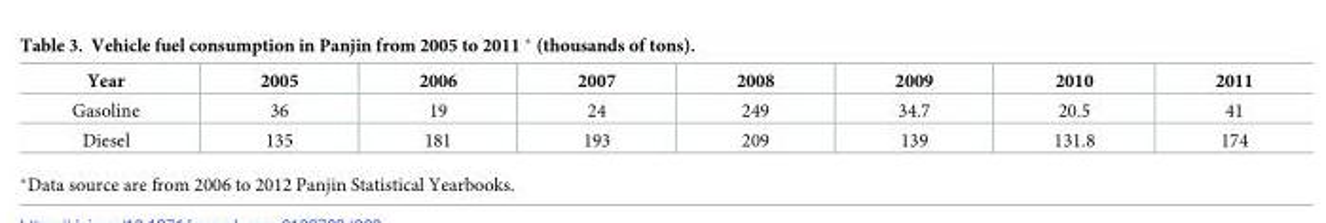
<table><thead><tr><td>Year</td><td>2005</td><td>2006</td><td>2007</td><td>2008</td><td>2009</td><td>2010</td><td>2011</td></tr></thead><tbody><tr><td>Gasoline</td><td>36</td><td>19</td><td>24</td><td>249</td><td>34.7</td><td>20.5</td><td>41</td></tr><tr><td>Diesel</td><td>135</td><td>181</td><td>193</td><td>209</td><td>139</td><td>131.8</td><td>174</td></tr></tbody></table>